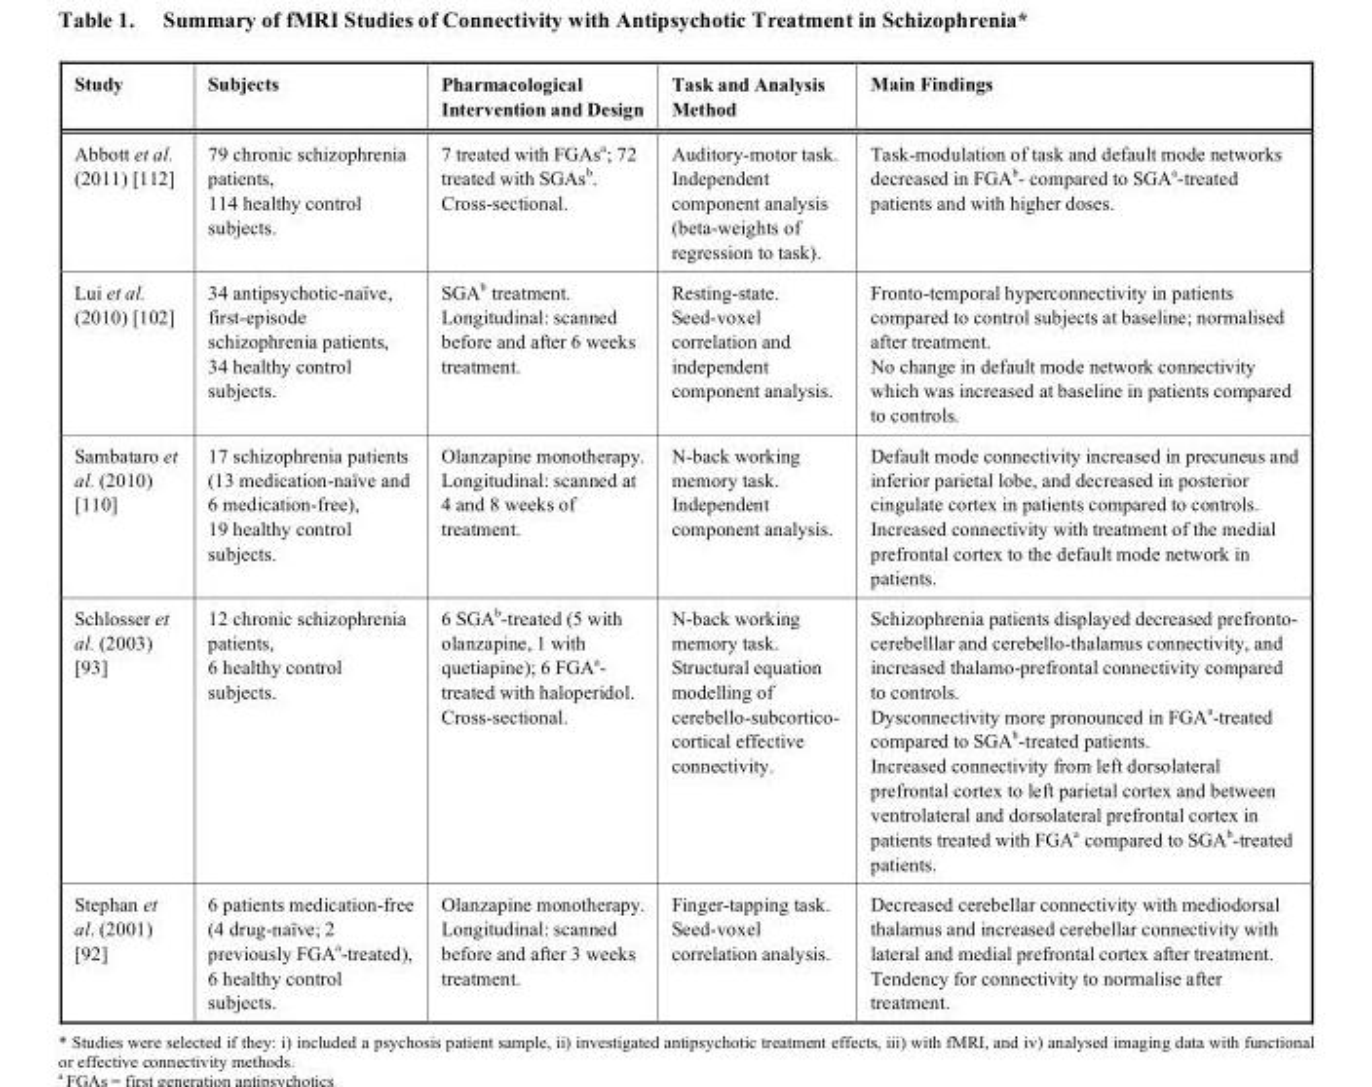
<table><thead><tr><td>Study</td><td>Subjects</td><td>Pharmacological Intervention and Design</td><td>Task and Analysis Method</td><td>Main Findings</td></tr></thead><tbody><tr><td>Abbott et al. (2011) [112]</td><td>79 chronic schizophrenia patients, 114 healthy control subjects.</td><td>7 treated with FGAsa; 72 treated with SGAsb. Cross-sectional.</td><td>Auditory-motor task. Independent component analysis (beta-weights of regression to task).</td><td>Task-modulation of task and default mode networks decreased in FGA<sup>b</sup>- compared to SGA<sup>a</sup>-treated patients and with higher doses.</td></tr><tr><td>Lui et al. (2010) [102]</td><td>34 antipsychotic-naïve, first-episode schizophrenia patients, 34 healthy control subjects.</td><td>SGA<sup>b</sup> treatment. Longitudinal: scanned before and after 6 weeks treatment.</td><td>Resting-state. Seed-voxel correlation and independent component analysis.</td><td>Fronto-temporal hyperconnectivity in patients compared to control subjects at baseline; normalised after treatment. No change in default mode network connectivity which was increased at baseline in patients compared to controls.</td></tr><tr><td>Sambataro et al. (2010) [110]</td><td>17 schizophrenia patients (13 medication-naïve and 6 medication-free), 19 healthy control subjects.</td><td>Olanzapine monotherapy. Longitudinal: scanned at 4 and 8 weeks of treatment.</td><td>N-back working memory task. Independent component analysis.</td><td>Default mode connectivity increased in precuneus and inferior parietal lobe, and decreased in posterior cingulate cortex in patients compared to controls. Increased connectivity with treatment of the medial prefrontal cortex to the default mode network in patients.</td></tr><tr><td>Schlosser et al. (2003) [93]</td><td>12 chronic schizophrenia patients, 6 healthy control subjects.</td><td>6 SGA<sup>b</sup>-treated (5 with olanzapine, 1 with quetiapine); 6 FGA<sup>a</sup>- treated with haloperidol. Cross-sectional.</td><td>N-back working memory task. Structural equation modelling of cerebello-subcortico- cortical effective connectivity.</td><td>Schizophrenia patients displayed decreased prefronto- cerebelllar and cerebello-thalamus connectivity, and increased thalamo-prefrontal connectivity compared to controls. Dysconnectivity more pronounced in FGA<sup>a</sup>-treated compared to SGA<sup>b</sup>-treated patients. Increased connectivity from left dorsolateral prefrontal cortex to left parietal cortex and between ventrolateral and dorsolateral prefrontal cortex in patients treated with FGA<sup>a</sup> compared to SGA<sup>b</sup>-treated patients.</td></tr><tr><td>Stephan et al. (2001) [92]</td><td>6 patients medication-free (4 drug-naïve; 2 previously FGA<sup>a</sup>-treated), 6 healthy control subjects.</td><td>Olanzapine monotherapy. Longitudinal: scanned before and after 3 weeks treatment.</td><td>Finger-tapping task. Seed-voxel correlation analysis.</td><td>Decreased cerebellar connectivity with mediodorsal thalamus and increased cerebellar connectivity with lateral and medial prefrontal cortex after treatment. Tendency for connectivity to normalise after treatment.</td></tr></tbody></table>